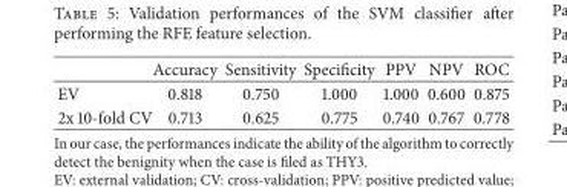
<table><thead><tr><td></td><td>Accuracy</td><td>Sensitivity</td><td>Specificity</td><td>PPV</td><td>NPV</td><td>ROC</td></tr></thead><tbody><tr><td>EV</td><td>0.818</td><td>0.750</td><td>1.000</td><td>1.000</td><td>0.600</td><td>0.875</td></tr><tr><td>2x 10-fold CV</td><td>0.713</td><td>0.625</td><td>0.775</td><td>0.740</td><td>0.767</td><td>0.778</td></tr></tbody></table>